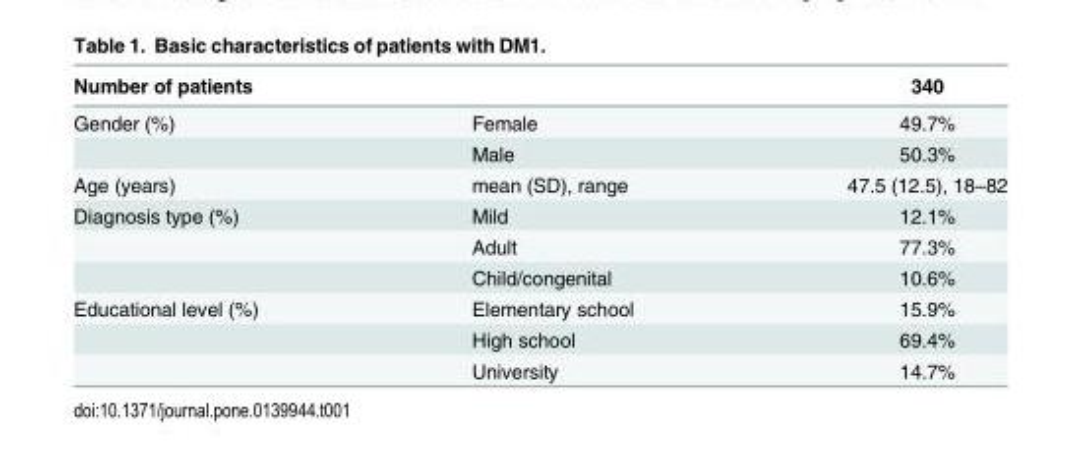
<table><thead><tr><td>Number of patients</td><td></td><td>340</td></tr></thead><tbody><tr><td rowspan="2">Gender (%)</td><td>Female</td><td>49.7%</td></tr><tr><td>Male</td><td>50.3%</td></tr><tr><td>Age (years)</td><td>mean (SD), range</td><td>47.5 (12.5), 18–82</td></tr><tr><td rowspan="3">Diagnosis type (%)</td><td>Mild</td><td>12.1%</td></tr><tr><td>Adult</td><td>77.3%</td></tr><tr><td>Child/congenital</td><td>10.6%</td></tr><tr><td rowspan="3">Educational level (%)</td><td>Elementary school</td><td>15.9%</td></tr><tr><td>High school</td><td>69.4%</td></tr><tr><td>University</td><td>14.7%</td></tr></tbody></table>